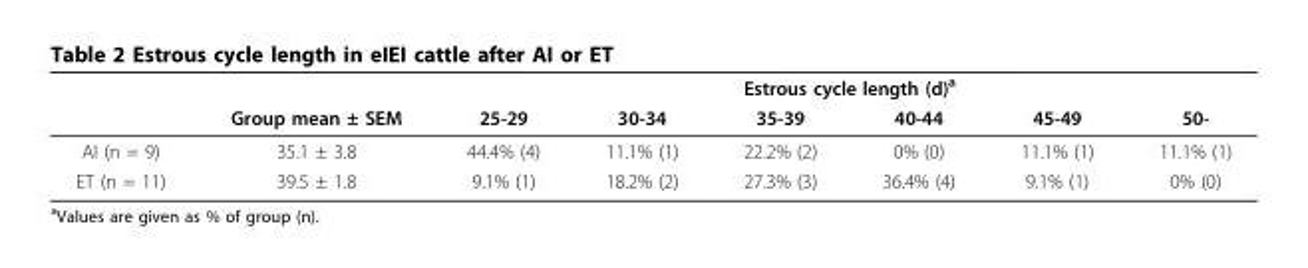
<table><thead><tr><td rowspan="2"></td><td rowspan="2">Group mean ± SEM</td><td colspan="6">Estrous cycle length (d)<sup>a</sup></td></tr><tr><td>25-29</td><td>30-34</td><td>35-39</td><td>40-44</td><td>45-49</td><td>50-</td></tr></thead><tbody><tr><td>AI (n = 9)</td><td>35.1 ± 3.8</td><td>44.4% (4)</td><td>11.1% (1)</td><td>22.2% (2)</td><td>0% (0)</td><td>11.1% (1)</td><td>11.1% (1)</td></tr><tr><td>ET (n = 11)</td><td>39.5 ± 1.8</td><td>9.1% (1)</td><td>18.2% (2)</td><td>27.3% (3)</td><td>36.4% (4)</td><td>9.1% (1)</td><td>0% (0)</td></tr></tbody></table>